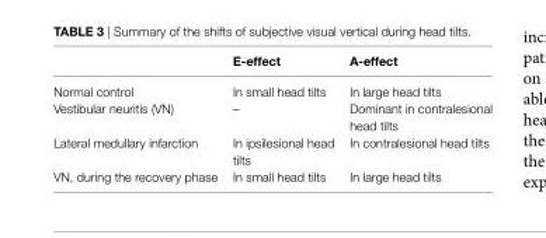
<table><thead><tr><td></td><td>e-effect</td><td>a-effect</td></tr></thead><tbody><tr><td>Normal control</td><td>In small head tilts</td><td>In large head tilts</td></tr><tr><td>Vestibular neuritis (VN)</td><td>–</td><td>Dominant in contralesional head tilts</td></tr><tr><td>Lateral medullary infarction</td><td>In ipsilesional head tilts</td><td>In contralesional head tilts</td></tr><tr><td>VN, during the recovery phase</td><td>In small head tilts</td><td>In large head tilts</td></tr></tbody></table>